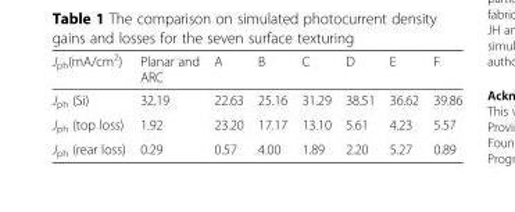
<table><thead><tr><td>J<sub>ph</sub>(mA/cm<sup>2</sup>)</td><td>Planar and ARC</td><td>A</td><td>B</td><td>C</td><td>D</td><td>E</td><td>F</td></tr></thead><tbody><tr><td>J<sub>ph</sub> (Si)</td><td>32.19</td><td>22.63</td><td>25.16</td><td>31.29</td><td>38.51</td><td>36.62</td><td>39.86</td></tr><tr><td>J<sub>ph</sub> (top loss)</td><td>1.92</td><td>23.20</td><td>17.17</td><td>13.10</td><td>5.61</td><td>4.23</td><td>5.57</td></tr><tr><td>J<sub>ph</sub> (rear loss)</td><td>0.29</td><td>0.57</td><td>4.00</td><td>1.89</td><td>2.20</td><td>5.27</td><td>0.89</td></tr></tbody></table>